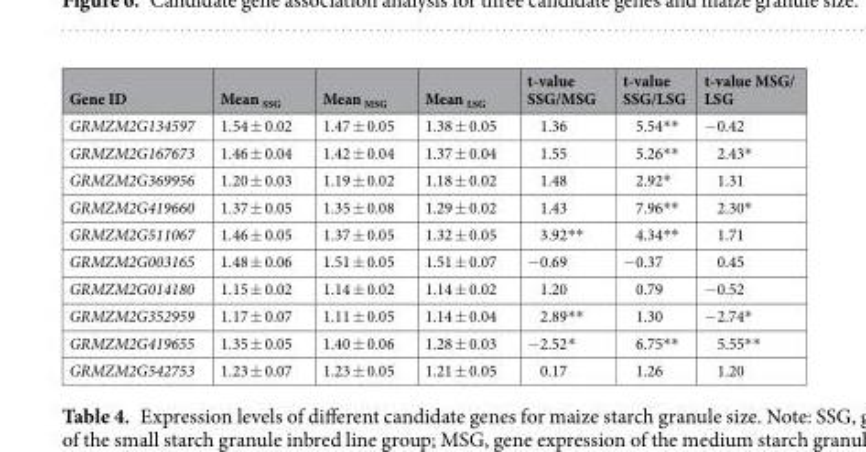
<table><thead><tr><td>Gene ID</td><td>Mean <sub>SSG</sub></td><td>Mean <sub>MSG</sub></td><td>Mean <sub>LSG</sub></td><td>t-value SSG/MSG</td><td>t-value SSG/LSG</td><td>t-value MSG/ LSG</td></tr></thead><tbody><tr><td>GRMZM2G134597</td><td>1.54 ± 0.02</td><td>1.47 ± 0.05</td><td>1.38 ± 0.05</td><td>1.36</td><td>5.54**</td><td>−0.42</td></tr><tr><td>GRMZM2G167673</td><td>1.46 ± 0.04</td><td>1.42 ± 0.04</td><td>1.37 ± 0.04</td><td>1.55</td><td>5.26**</td><td>2.43*</td></tr><tr><td>GRMZM2G369956</td><td>1.20 ± 0.03</td><td>1.19 ± 0.02</td><td>1.18 ± 0.02</td><td>1.48</td><td>2.92*</td><td>1.31</td></tr><tr><td>GRMZM2G419660</td><td>1.37 ± 0.05</td><td>1.35 ± 0.08</td><td>1.29 ± 0.02</td><td>1.43</td><td>7.96**</td><td>2.30*</td></tr><tr><td>GRMZM2G511067</td><td>1.46 ± 0.05</td><td>1.37 ± 0.05</td><td>1.32 ± 0.05</td><td>3.92**</td><td>4.34**</td><td>1.71</td></tr><tr><td>GRMZM2G003165</td><td>1.48 ± 0.06</td><td>1.51 ± 0.05</td><td>1.51 ± 0.07</td><td>−0.69</td><td>−0.37</td><td>0.45</td></tr><tr><td>GRMZM2G014180</td><td>1.15 ± 0.02</td><td>1.14 ± 0.02</td><td>1.14 ± 0.02</td><td>1.20</td><td>0.79</td><td>−0.52</td></tr><tr><td>GRMZM2G352959</td><td>1.17 ± 0.07</td><td>1.11 ± 0.05</td><td>1.14 ± 0.04</td><td>2.89**</td><td>1.30</td><td>−2.74*</td></tr><tr><td>GRMZM2G419655</td><td>1.35 ± 0.05</td><td>1.40 ± 0.06</td><td>1.28 ± 0.03</td><td>−2.52*</td><td>6.75**</td><td>5.55**</td></tr><tr><td>GRMZM2G542753</td><td>1.23 ± 0.07</td><td>1.23 ± 0.05</td><td>1.21 ± 0.05</td><td>0.17</td><td>1.26</td><td>1.20</td></tr></tbody></table>